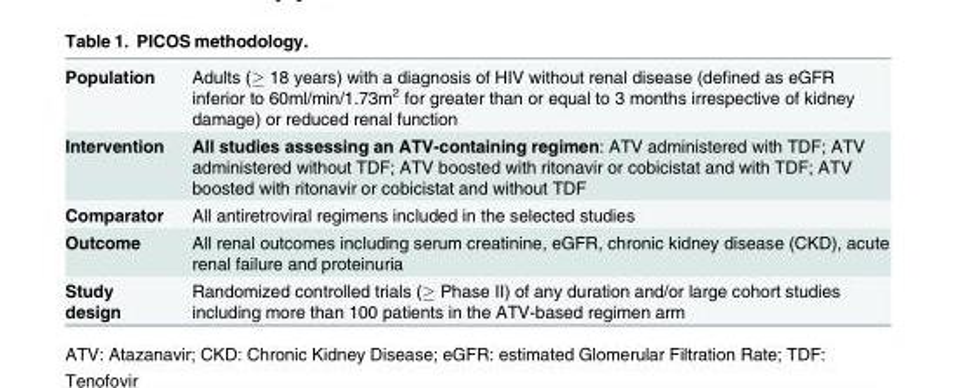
<table><tbody><tr><td>Population</td><td>Adults (≥ 18 years) with a diagnosis of HIV without renal disease (defined as eGFR inferior to 60ml/min/1.73m<sup>2</sup> for greater than or equal to 3 months irrespective of kidney damage) or reduced renal function</td></tr><tr><td>Intervention</td><td>All studies assessing an ATV-containing regimen: ATV administered with TDF; ATV administered without TDF; ATV boosted with ritonavir or cobicistat and with TDF; ATV boosted with ritonavir or cobicistat and without TDF</td></tr><tr><td>Comparator</td><td>All antiretroviral regimens included in the selected studies</td></tr><tr><td>Outcome</td><td>All renal outcomes including serum creatinine, eGFR, chronic kidney disease (CKD), acute renal failure and proteinuria</td></tr><tr><td>Study design</td><td>Randomized controlled trials (≥ Phase II) of any duration and/or large cohort studies including more than 100 patients in the ATV-based regimen arm</td></tr></tbody></table>